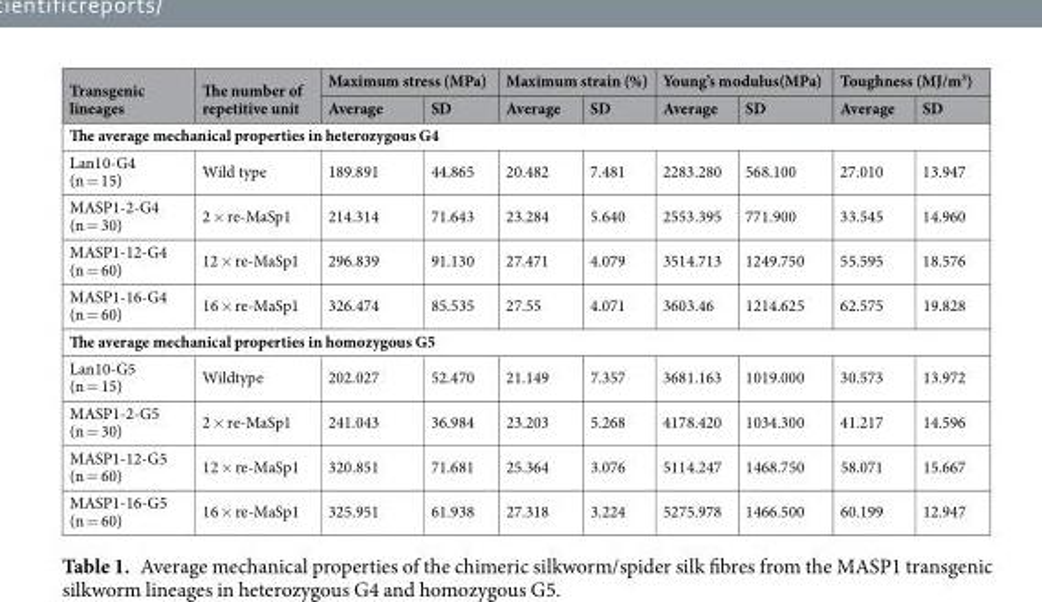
<table><thead><tr><td rowspan="2">Transgenic lineages</td><td rowspan="2">The number of repetitive unit</td><td colspan="2">Maximum stress (MPa)</td><td colspan="2">Maximum strain (%)</td><td colspan="2">Young’s modulus(MPa)</td><td colspan="2">Toughness (MJ/m<sup>3</sup>)</td></tr><tr><td>Average</td><td>SD</td><td>Average</td><td>SD</td><td>Average</td><td>SD</td><td>Average</td><td>SD</td></tr></thead><tbody><tr><td colspan="10">The average mechanical properties in heterozygous G4</td></tr><tr><td>Lan10-G4 (n = 15)</td><td>Wild type</td><td>189.891</td><td>44.865</td><td>20.482</td><td>7.481</td><td>2283.280</td><td>568.100</td><td>27.010</td><td>13.947</td></tr><tr><td>MASP1-2-G4 (n = 30)</td><td>2 × re-MaSp1</td><td>214.314</td><td>71.643</td><td>23.284</td><td>5.640</td><td>2553.395</td><td>771.900</td><td>33.545</td><td>14.960</td></tr><tr><td>MASP1-12-G4 (n = 60)</td><td>12 × re-MaSp1</td><td>296.839</td><td>91.130</td><td>27.471</td><td>4.079</td><td>3514.713</td><td>1249.750</td><td>55.595</td><td>18.576</td></tr><tr><td>MASP1-16-G4 (n = 60)</td><td>16 × re-MaSp1</td><td>326.474</td><td>85.535</td><td>27.55</td><td>4.071</td><td>3603.46</td><td>1214.625</td><td>62.575</td><td>19.828</td></tr><tr><td colspan="10">The average mechanical properties in homozygous G5</td></tr><tr><td>Lan10-G5 (n = 15)</td><td>Wildtype</td><td>202.027</td><td>52.470</td><td>21.149</td><td>7.357</td><td>3681.163</td><td>1019.000</td><td>30.573</td><td>13.972</td></tr><tr><td>MASP1-2-G5 (n = 30)</td><td>2 × re-MaSp1</td><td>241.043</td><td>36.984</td><td>23.203</td><td>5.268</td><td>4178.420</td><td>1034.300</td><td>41.217</td><td>14.596</td></tr><tr><td>MASP1-12-G5 (n = 60)</td><td>12 × re-MaSp1</td><td>320.851</td><td>71.681</td><td>25.364</td><td>3.076</td><td>5114.247</td><td>1468.750</td><td>58.071</td><td>15.667</td></tr><tr><td>MASP1-16-G5 (n = 60)</td><td>16 × re-MaSp1</td><td>325.951</td><td>61.938</td><td>27.318</td><td>3.224</td><td>5275.978</td><td>1466.500</td><td>60.199</td><td>12.947</td></tr></tbody></table>